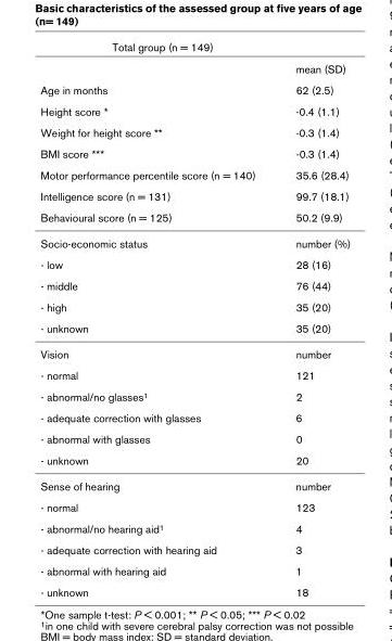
<table><thead><tr><td>Total group (n = 149)</td><td></td></tr></thead><tbody><tr><td></td><td>mean (SD)</td></tr><tr><td>Age in months</td><td>62 (2.5)</td></tr><tr><td>Height score *</td><td>-0.4 (1.1)</td></tr><tr><td>Weight for height score **</td><td>-0.3 (1.4)</td></tr><tr><td>BMI score ***</td><td>-0.3 (1.4)</td></tr><tr><td>Motor performance percentile score (n = 140)</td><td>35.6 (28.4)</td></tr><tr><td>Intelligence score (n = 131)</td><td>99.7 (18.1)</td></tr><tr><td>Behavioural score (n = 125)</td><td>50.2 (9.9)</td></tr><tr><td>Socio-economic status</td><td>number (%)</td></tr><tr><td>- low</td><td>28 (16)</td></tr><tr><td>- middle</td><td>76 (44)</td></tr><tr><td>- high</td><td>35 (20)</td></tr><tr><td>- unknown</td><td>35 (20)</td></tr><tr><td>Vision</td><td>number</td></tr><tr><td>- normal</td><td>121</td></tr><tr><td>- abnormal/no glasses<sup>1</sup></td><td>2</td></tr><tr><td>- adequate correction with glasses</td><td>6</td></tr><tr><td>- abnormal with glasses</td><td>0</td></tr><tr><td>- unknown</td><td>20</td></tr><tr><td>Sense of hearing</td><td>number</td></tr><tr><td>- normal</td><td>123</td></tr><tr><td>- abnormal/no hearing aid<sup>1</sup></td><td>4</td></tr><tr><td>- adequate correction with hearing aid</td><td>3</td></tr><tr><td>- abnormal with hearing aid</td><td>1</td></tr><tr><td>- unknown</td><td>18</td></tr></tbody></table>